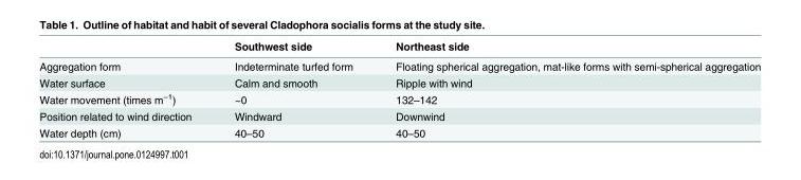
<table><thead><tr><td></td><td>Southwest side</td><td>Northeast side</td></tr></thead><tbody><tr><td>Aggregation form</td><td>Indeterminate turfed form</td><td>Floating spherical aggregation, mat-like forms with semi-spherical aggregation</td></tr><tr><td>Water surface</td><td>Calm and smooth</td><td>Ripple with wind</td></tr><tr><td>Water movement (times m<sup>−1</sup>)</td><td>~0</td><td>132–142</td></tr><tr><td>Position related to wind direction</td><td>Windward</td><td>Downwind</td></tr><tr><td>Water depth (cm)</td><td>40–50</td><td>40–50</td></tr></tbody></table>